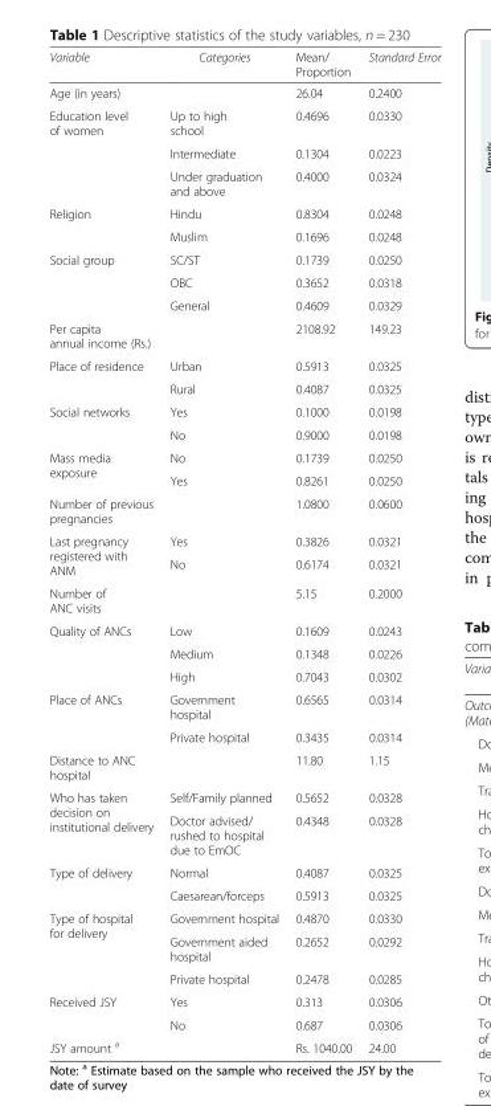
<table><thead><tr><td>Variable</td><td>Categories</td><td>Mean/ Proportion</td><td>Standard Error</td></tr></thead><tbody><tr><td>Age (in years)</td><td></td><td>26.04</td><td>0.2400</td></tr><tr><td rowspan="3">Education level of women</td><td>Up to high school</td><td>0.4696</td><td>0.0330</td></tr><tr><td>Intermediate</td><td>0.1304</td><td>0.0223</td></tr><tr><td>Under graduation and above</td><td>0.4000</td><td>0.0324</td></tr><tr><td rowspan="2">Religion</td><td>Hindu</td><td>0.8304</td><td>0.0248</td></tr><tr><td>Muslim</td><td>0.1696</td><td>0.0248</td></tr><tr><td rowspan="3">Social group</td><td>SC/ST</td><td>0.1739</td><td>0.0250</td></tr><tr><td>OBC</td><td>0.3652</td><td>0.0318</td></tr><tr><td>General</td><td>0.4609</td><td>0.0329</td></tr><tr><td>Per capita annual income (Rs.)</td><td></td><td>2108.92</td><td>149.23</td></tr><tr><td rowspan="2">Place of residence</td><td>Urban</td><td>0.5913</td><td>0.0325</td></tr><tr><td>Rural</td><td>0.4087</td><td>0.0325</td></tr><tr><td rowspan="2">Social networks</td><td>Yes</td><td>0.1000</td><td>0.0198</td></tr><tr><td>No</td><td>0.9000</td><td>0.0198</td></tr><tr><td rowspan="2">Mass media exposure</td><td>No</td><td>0.1739</td><td>0.0250</td></tr><tr><td>Yes</td><td>0.8261</td><td>0.0250</td></tr><tr><td>Number of previous pregnancies</td><td></td><td>1.0800</td><td>0.0600</td></tr><tr><td rowspan="2">Last pregnancy registered with ANM</td><td>Yes</td><td>0.3826</td><td>0.0321</td></tr><tr><td>No</td><td>0.6174</td><td>0.0321</td></tr><tr><td>Number of ANC visits</td><td></td><td>5.15</td><td>0.2000</td></tr><tr><td rowspan="3">Quality of ANCs</td><td>Low</td><td>0.1609</td><td>0.0243</td></tr><tr><td>Medium</td><td>0.1348</td><td>0.0226</td></tr><tr><td>High</td><td>0.7043</td><td>0.0302</td></tr><tr><td rowspan="2">Place of ANCs</td><td>Government hospital</td><td>0.6565</td><td>0.0314</td></tr><tr><td>Private hospital</td><td>0.3435</td><td>0.0314</td></tr><tr><td>Distance to ANC hospital</td><td></td><td>11.80</td><td>1.15</td></tr><tr><td rowspan="2">Who has taken decision on institutional delivery</td><td>Self/Family planned</td><td>0.5652</td><td>0.0328</td></tr><tr><td>Doctor advised/ rushed to hospital due to EmOC</td><td>0.4348</td><td>0.0328</td></tr><tr><td rowspan="2">Type of delivery</td><td>Normal</td><td>0.4087</td><td>0.0325</td></tr><tr><td>Caesarean/forceps</td><td>0.5913</td><td>0.0325</td></tr><tr><td rowspan="3">Type of hospital for delivery</td><td>Government hospital</td><td>0.4870</td><td>0.0330</td></tr><tr><td>Government aided hospital</td><td>0.2652</td><td>0.0292</td></tr><tr><td>Private hospital</td><td>0.2478</td><td>0.0285</td></tr><tr><td rowspan="2">Received JSY</td><td>Yes</td><td>0.313</td><td>0.0306</td></tr><tr><td>No</td><td>0.687</td><td>0.0306</td></tr><tr><td>JSY amount <sup>a</sup></td><td></td><td>Rs. 1040.00</td><td>24.00</td></tr></tbody></table>